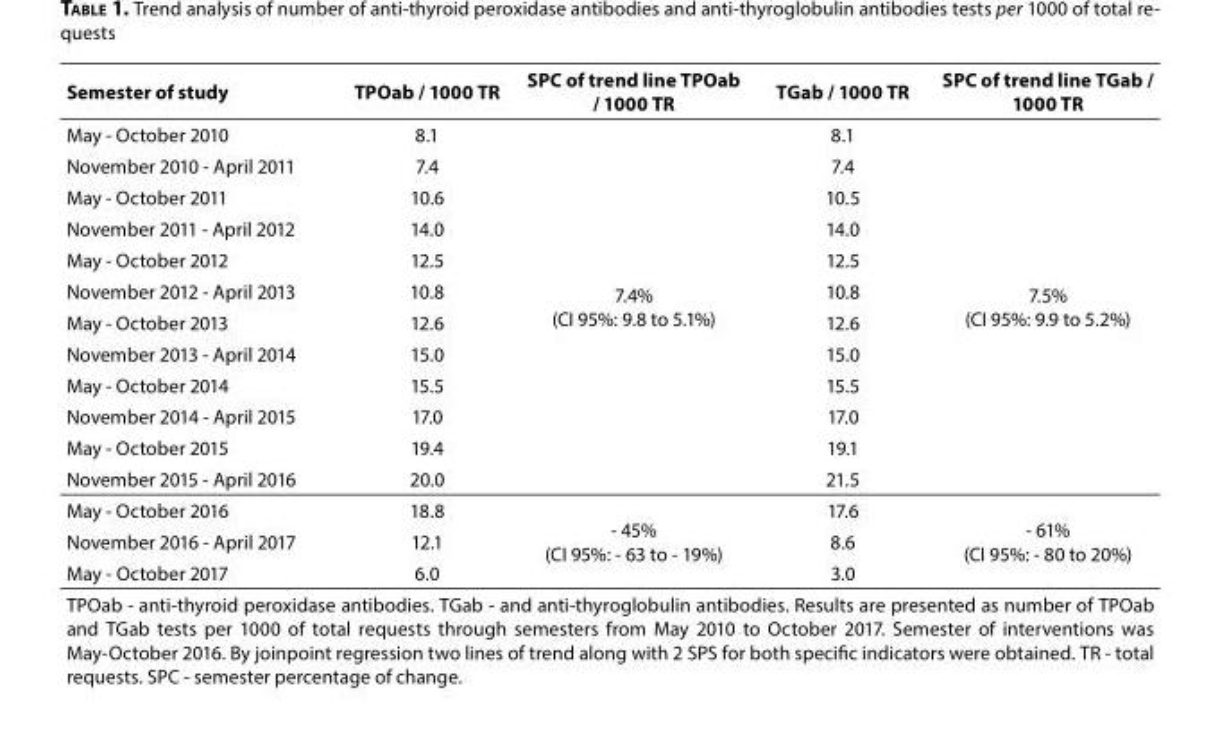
<table><thead><tr><td>Semester of study</td><td>TPOab / 1000 TR</td><td>SPC of trend line TPOab / 1000 TR</td><td>TGab / 1000 TR</td><td>SPC of trend line TGab / 1000 TR</td></tr></thead><tbody><tr><td>May - October 2010</td><td>8.1</td><td rowspan="12">7.4% (CI 95%: 9.8 to 5.1%)</td><td>8.1</td><td rowspan="12">7.5% (CI 95%: 9.9 to 5.2%)</td></tr><tr><td>November 2010 - April 2011</td><td>7.4</td><td>7.4</td></tr><tr><td>May - October 2011</td><td>10.6</td><td>10.5</td></tr><tr><td>November 2011 - April 2012</td><td>14.0</td><td>14.0</td></tr><tr><td>May - October 2012</td><td>12.5</td><td>12.5</td></tr><tr><td>November 2012 - April 2013</td><td>10.8</td><td>10.8</td></tr><tr><td>May - October 2013</td><td>12.6</td><td>12.6</td></tr><tr><td>November 2013 - April 2014</td><td>15.0</td><td>15.0</td></tr><tr><td>May - October 2014</td><td>15.5</td><td>15.5</td></tr><tr><td>November 2014 - April 2015</td><td>17.0</td><td>17.0</td></tr><tr><td>May - October 2015</td><td>19.4</td><td>19.1</td></tr><tr><td>November 2015 - April 2016</td><td>20.0</td><td>21.5</td></tr><tr><td>May - October 2016</td><td>18.8</td><td rowspan="3">- 45% (CI 95%: - 63 to - 19%)</td><td>17.6</td><td rowspan="3">- 61% (CI 95%: - 80 to 20%)</td></tr><tr><td>November 2016 - April 2017</td><td>12.1</td><td>8.6</td></tr><tr><td>May - October 2017</td><td>6.0</td><td>3.0</td></tr><tr><td colspan="5">TPOab - anti-thyroid peroxidase antibodies. TGab - and anti-thyroglobulin antibodies. Results are presented as number of TPOab and TGab tests per 1000 of total requests through semesters from May 2010 to October 2017. Semester of interventions was May-October 2016. By joinpoint regression two lines of trend along with 2 SPS for both specific indicators were obtained. TR - total requests. SPC - semester percentage of change.</td></tr></tbody></table>